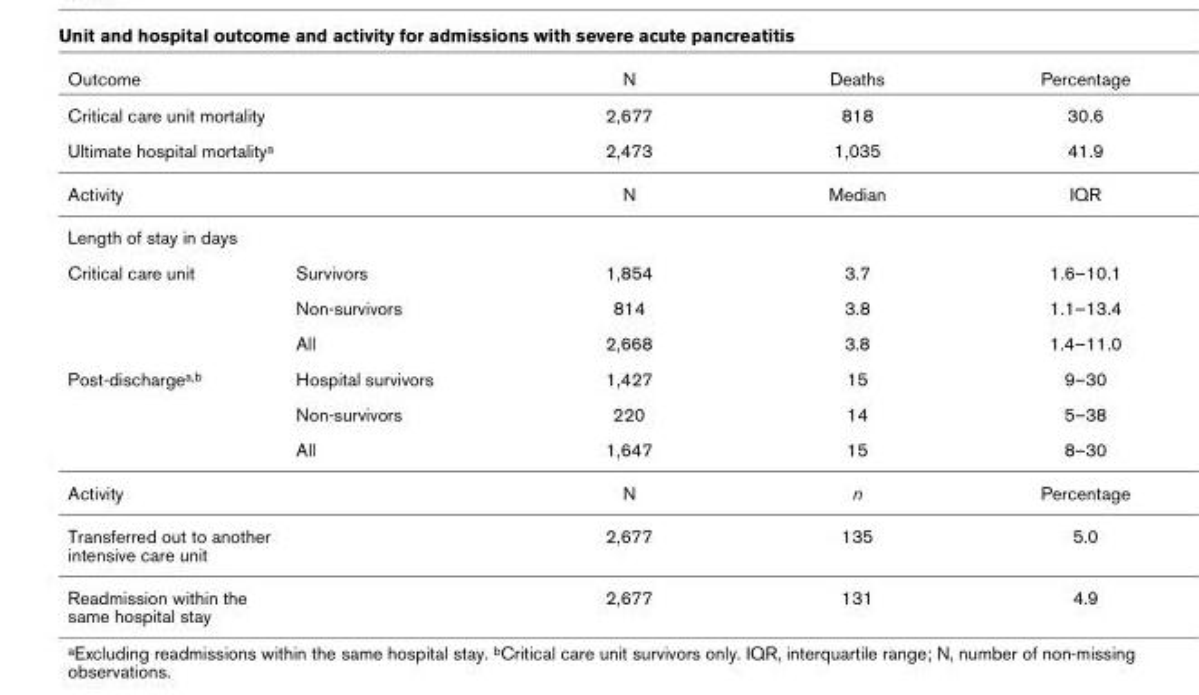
<table><thead><tr><td>Outcome</td><td></td><td>N</td><td>Deaths</td><td>Percentage</td></tr></thead><tbody><tr><td>Critical care unit mortality</td><td></td><td>2,677</td><td>818</td><td>30.6</td></tr><tr><td>Ultimate hospital mortality<sup>a</sup></td><td></td><td>2,473</td><td>1,035</td><td>41.9</td></tr><tr><td>Activity</td><td></td><td>N</td><td>Median</td><td>IQR</td></tr><tr><td colspan="5">Length of stay in days</td></tr><tr><td rowspan="3">Critical care unit</td><td>Survivors</td><td>1,854</td><td>3.7</td><td>1.6–10.1</td></tr><tr><td>Non-survivors</td><td>814</td><td>3.8</td><td>1.1–13.4</td></tr><tr><td>All</td><td>2,668</td><td>3.8</td><td>1.4–11.0</td></tr><tr><td rowspan="3">Post-discharge<sup>a,b</sup></td><td>Hospital survivors</td><td>1,427</td><td>15</td><td>9–30</td></tr><tr><td>Non-survivors</td><td>220</td><td>14</td><td>5–38</td></tr><tr><td>All</td><td>1,647</td><td>15</td><td>8–30</td></tr><tr><td>Activity</td><td></td><td>N</td><td>n</td><td>Percentage</td></tr><tr><td>Transferred out to another intensive care unit</td><td></td><td>2,677</td><td>135</td><td>5.0</td></tr><tr><td>Readmission within the same hospital stay</td><td></td><td>2,677</td><td>131</td><td>4.9</td></tr></tbody></table>